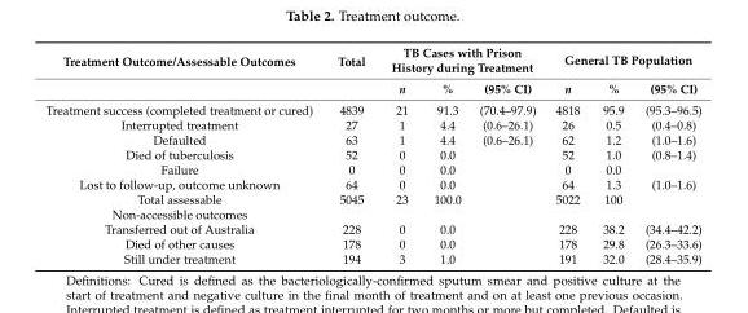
<table><thead><tr><td rowspan="2">Treatment Outcome/Assessable Outcomes</td><td rowspan="2">Total</td><td colspan="3">TB Cases with Prison History during Treatment</td><td colspan="3">General TB Population</td></tr><tr><td>n</td><td>%</td><td>(95% CI)</td><td>n</td><td>%</td><td>(95% CI)</td></tr></thead><tbody><tr><td>Treatment success (completed treatment or cured)</td><td>4839</td><td>21</td><td>91.3</td><td>(70.4–97.9)</td><td>4818</td><td>95.9</td><td>(95.3–96.5)</td></tr><tr><td>Interrupted treatment</td><td>27</td><td>1</td><td>4.4</td><td>(0.6–26.1)</td><td>26</td><td>0.5</td><td>(0.4–0.8)</td></tr><tr><td>Defaulted</td><td>63</td><td>1</td><td>4.4</td><td>(0.6–26.1)</td><td>62</td><td>1.2</td><td>(1.0–1.6)</td></tr><tr><td>Died of tuberculosis</td><td>52</td><td>0</td><td>0.0</td><td></td><td>52</td><td>1.0</td><td>(0.8–1.4)</td></tr><tr><td>Failure</td><td>0</td><td>0</td><td>0.0</td><td></td><td>0</td><td>0.0</td><td></td></tr><tr><td>Lost to follow-up, outcome unknown</td><td>64</td><td>0</td><td>0.0</td><td></td><td>64</td><td>1.3</td><td>(1.0–1.6)</td></tr><tr><td>Total assessable</td><td>5045</td><td>23</td><td>100.0</td><td></td><td>5022</td><td>100</td><td></td></tr><tr><td colspan="8">Non-accessible outcomes</td></tr><tr><td>Transferred out of Australia</td><td>228</td><td>0</td><td>0.0</td><td></td><td>228</td><td>38.2</td><td>(34.4–42.2)</td></tr><tr><td>Died of other causes</td><td>178</td><td>0</td><td>0.0</td><td></td><td>178</td><td>29.8</td><td>(26.3–33.6)</td></tr><tr><td>Still under treatment</td><td>194</td><td>3</td><td>1.0</td><td></td><td>191</td><td>32.0</td><td>(28.4–35.9)</td></tr></tbody></table>